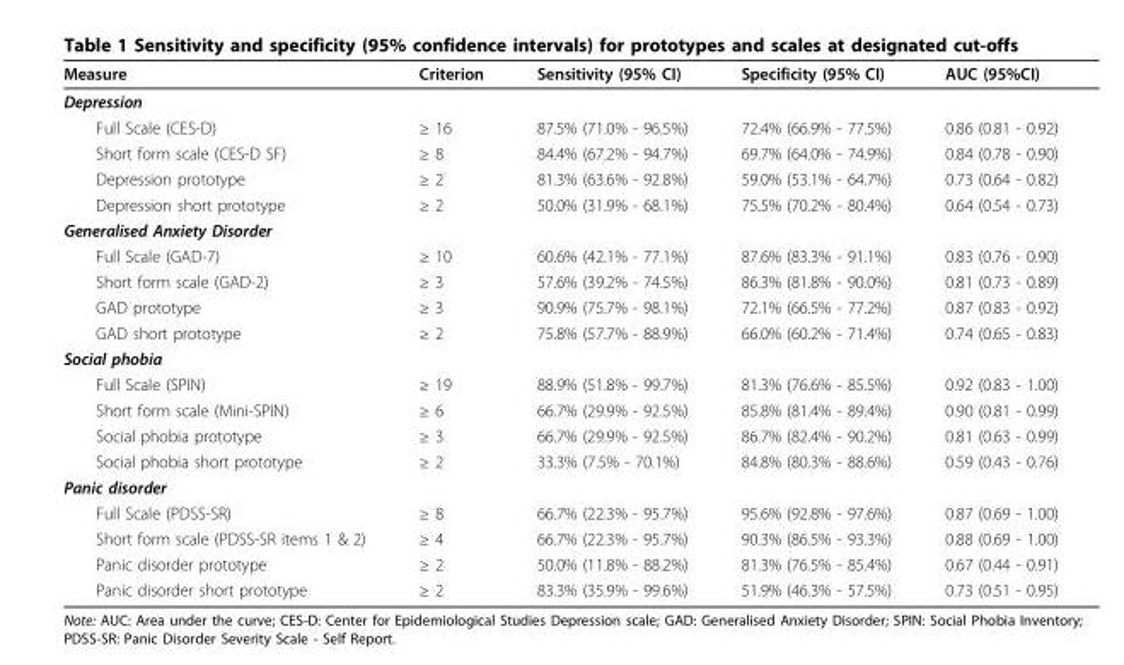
<table><thead><tr><td>Measure</td><td>Criterion</td><td>Sensitivity (95% CI)</td><td>Specificity (95% CI)</td><td>AUC (95%CI)</td></tr></thead><tbody><tr><td colspan="5">Depression</td></tr><tr><td>Full Scale (CES-D)</td><td>≥ 16</td><td>87.5% (71.0% - 96.5%)</td><td>72.4% (66.9% - 77.5%)</td><td>0.86 (0.81 - 0.92)</td></tr><tr><td>Short form scale (CES-D SF)</td><td>≥ 8</td><td>84.4% (67.2% - 94.7%)</td><td>69.7% (64.0% - 74.9%)</td><td>0.84 (0.78 - 0.90)</td></tr><tr><td>Depression prototype</td><td>≥ 2</td><td>81.3% (63.6% - 92.8%)</td><td>59.0% (53.1% - 64.7%)</td><td>0.73 (0.64 - 0.82)</td></tr><tr><td>Depression short prototype</td><td>≥ 2</td><td>50.0% (31.9% - 68.1%)</td><td>75.5% (70.2% - 80.4%)</td><td>0.64 (0.54 - 0.73)</td></tr><tr><td colspan="5">Generalised Anxiety Disorder</td></tr><tr><td>Full Scale (GAD-7)</td><td>≥ 10</td><td>60.6% (42.1% - 77.1%)</td><td>87.6% (83.3% - 91.1%)</td><td>0.83 (0.76 - 0.90)</td></tr><tr><td>Short form scale (GAD-2)</td><td>≥ 3</td><td>57.6% (39.2% - 74.5%)</td><td>86.3% (81.8% - 90.0%)</td><td>0.81 (0.73 - 0.89)</td></tr><tr><td>GAD prototype</td><td>≥ 3</td><td>90.9% (75.7% - 98.1%)</td><td>72.1% (66.5% - 77.2%)</td><td>0.87 (0.83 - 0.92)</td></tr><tr><td>GAD short prototype</td><td>≥ 2</td><td>75.8% (57.7% - 88.9%)</td><td>66.0% (60.2% - 71.4%)</td><td>0.74 (0.65 - 0.83)</td></tr><tr><td colspan="5">Social phobia</td></tr><tr><td>Full Scale (SPIN)</td><td>≥ 19</td><td>88.9% (51.8% - 99.7%)</td><td>81.3% (76.6% - 85.5%)</td><td>0.92 (0.83 - 1.00)</td></tr><tr><td>Short form scale (Mini-SPIN)</td><td>≥ 6</td><td>66.7% (29.9% - 92.5%)</td><td>85.8% (81.4% - 89.4%)</td><td>0.90 (0.81 - 0.99)</td></tr><tr><td>Social phobia prototype</td><td>≥ 3</td><td>66.7% (29.9% - 92.5%)</td><td>86.7% (82.4% - 90.2%)</td><td>0.81 (0.63 - 0.99)</td></tr><tr><td>Social phobia short prototype</td><td>≥ 2</td><td>33.3% (7.5% - 70.1%)</td><td>84.8% (80.3% - 88.6%)</td><td>0.59 (0.43 - 0.76)</td></tr><tr><td colspan="5">Panic disorder</td></tr><tr><td>Full Scale (PDSS-SR)</td><td>≥ 8</td><td>66.7% (22.3% - 95.7%)</td><td>95.6% (92.8% - 97.6%)</td><td>0.87 (0.69 - 1.00)</td></tr><tr><td>Short form scale (PDSS-SR items 1 &amp; 2)</td><td>≥ 4</td><td>66.7% (22.3% - 95.7%)</td><td>90.3% (86.5% - 93.3%)</td><td>0.88 (0.69 - 1.00)</td></tr><tr><td>Panic disorder prototype</td><td>≥ 2</td><td>50.0% (11.8% - 88.2%)</td><td>81.3% (76.5% - 85.4%)</td><td>0.67 (0.44 - 0.91)</td></tr><tr><td>Panic disorder short prototype</td><td>≥ 2</td><td>83.3% (35.9% - 99.6%)</td><td>51.9% (46.3% - 57.5%)</td><td>0.73 (0.51 - 0.95)</td></tr></tbody></table>